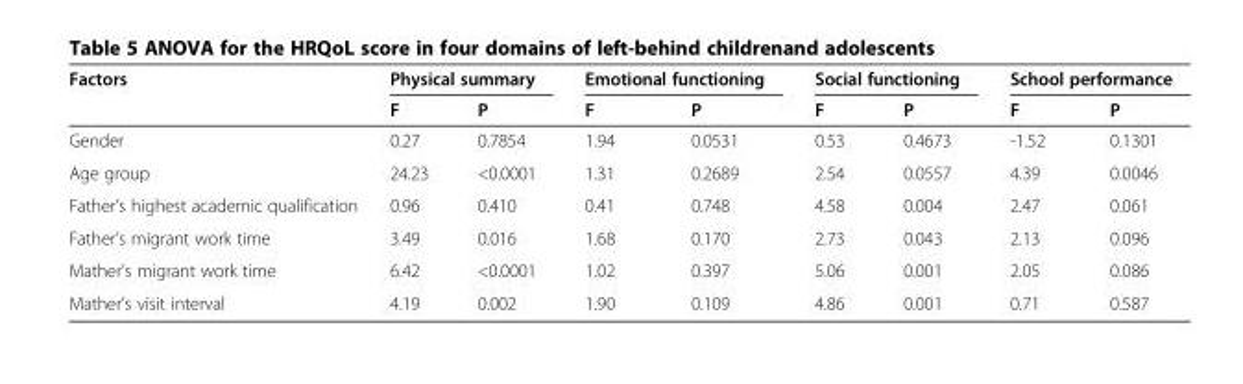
<table><thead><tr><td rowspan="2">Factors</td><td colspan="2">Physical summary</td><td colspan="2">Emotional functioning</td><td colspan="2">Social functioning</td><td colspan="2">School performance</td></tr><tr><td>F</td><td>P</td><td>F</td><td>P</td><td>F</td><td>P</td><td>F</td><td>P</td></tr></thead><tbody><tr><td>Gender</td><td>0.27</td><td>0.7854</td><td>1.94</td><td>0.0531</td><td>0.53</td><td>0.4673</td><td>-1.52</td><td>0.1301</td></tr><tr><td>Age group</td><td>24.23</td><td>&lt;0.0001</td><td>1.31</td><td>0.2689</td><td>2.54</td><td>0.0557</td><td>4.39</td><td>0.0046</td></tr><tr><td>Father’s highest academic qualification</td><td>0.96</td><td>0.410</td><td>0.41</td><td>0.748</td><td>4.58</td><td>0.004</td><td>2.47</td><td>0.061</td></tr><tr><td>Father’s migrant work time</td><td>3.49</td><td>0.016</td><td>1.68</td><td>0.170</td><td>2.73</td><td>0.043</td><td>2.13</td><td>0.096</td></tr><tr><td>Mather’s migrant work time</td><td>6.42</td><td>&lt;0.0001</td><td>1.02</td><td>0.397</td><td>5.06</td><td>0.001</td><td>2.05</td><td>0.086</td></tr><tr><td>Mather’s visit interval</td><td>4.19</td><td>0.002</td><td>1.90</td><td>0.109</td><td>4.86</td><td>0.001</td><td>0.71</td><td>0.587</td></tr></tbody></table>